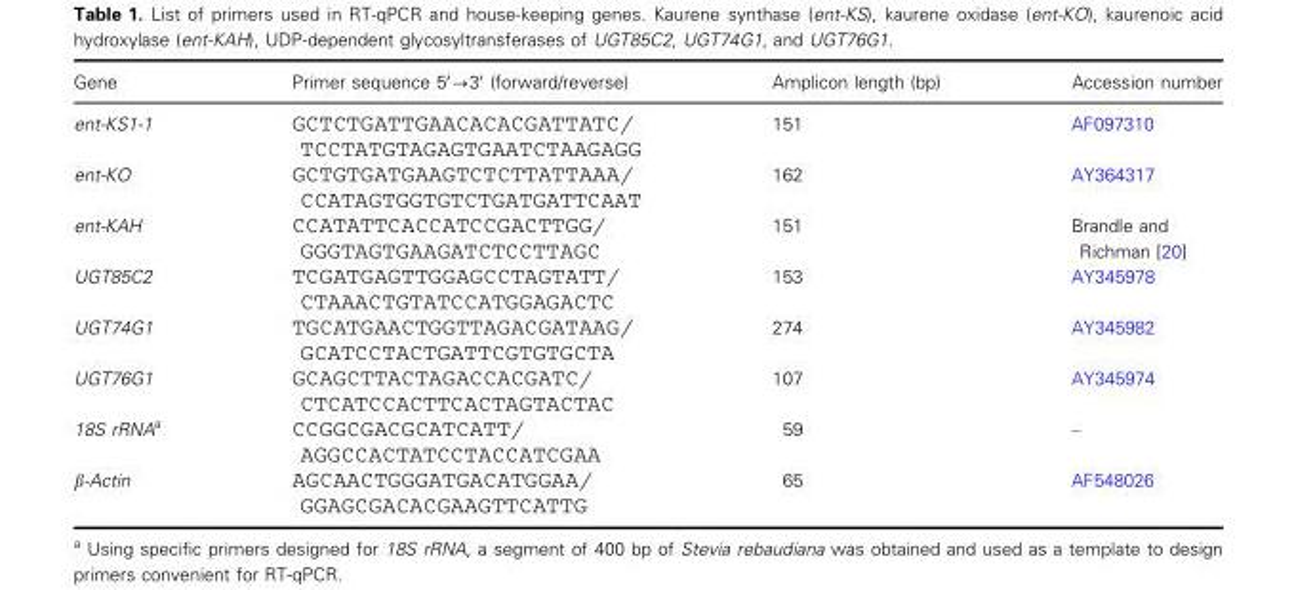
<table><thead><tr><td>Gene</td><td>Primer sequence 5′→3′ (forward/reverse)</td><td>Amplicon length (bp)</td><td>Accession number</td></tr></thead><tbody><tr><td>ent-KS1-1</td><td>GCTCTGATTGAACACACGATTATC/ TCCTATGTAGAGTGAATCTAAGAGG</td><td>151</td><td>AF097310</td></tr><tr><td>ent-KO</td><td>GCTGTGATGAAGTCTCTTATTAAA/ CCATAGTGGTGTCTGATGATTCAAT</td><td>162</td><td>AY364317</td></tr><tr><td>ent-KAH</td><td>CCATATTCACCATCCGACTTGG/ GGGTAGTGAAGATCTCCTTAGC</td><td>151</td><td>Brandle and Richman [20]</td></tr><tr><td>UGT85C2</td><td>TCGATGAGTTGGAGCCTAGTATT/ CTAAACTGTATCCATGGAGACTC</td><td>153</td><td>AY345978</td></tr><tr><td>UGT74G1</td><td>TGCATGAACTGGTTAGACGATAAG/ GCATCCTACTGATTCGTGTGCTA</td><td>274</td><td>AY345982</td></tr><tr><td>UGT76G1</td><td>GCAGCTTACTAGACCACGATC/ CTCATCCACTTCACTAGTACTAC</td><td>107</td><td>AY345974</td></tr><tr><td>18S rRNAa</td><td>CCGGCGACGCATCATT/ AGGCCACTATCCTACCATCGAA</td><td>59</td><td>–</td></tr><tr><td>β-Actin</td><td>AGCAACTGGGATGACATGGAA/ GGAGCGACACGAAGTTCATTG</td><td>65</td><td>AF548026</td></tr></tbody></table>